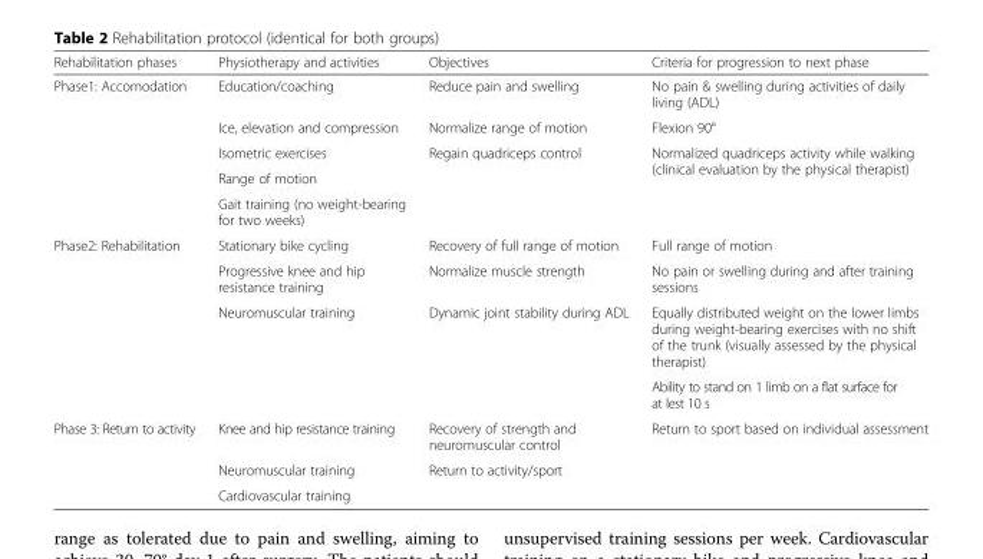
<table><thead><tr><td>Rehabilitation phases</td><td>Physiotherapy and activities</td><td>Objectives</td><td>Criteria for progression to next phase</td></tr></thead><tbody><tr><td rowspan="5">Phase1: Accomodation</td><td>Education/coaching</td><td>Reduce pain and swelling</td><td>No pain &amp; swelling during activities of daily living (ADL)</td></tr><tr><td>Ice, elevation and compression</td><td>Normalize range of motion</td><td>Flexion 90°</td></tr><tr><td>Isometric exercises</td><td rowspan="3">Regain quadriceps control</td><td rowspan="3">Normalized quadriceps activity while walking (clinical evaluation by the physical therapist)</td></tr><tr><td>Range of motion</td></tr><tr><td>Gait training (no weight-bearing for two weeks)</td></tr><tr><td rowspan="4">Phase2: Rehabilitation</td><td>Stationary bike cycling</td><td>Recovery of full range of motion</td><td>Full range of motion</td></tr><tr><td>Progressive knee and hip resistance training</td><td>Normalize muscle strength</td><td>No pain or swelling during and after training sessions</td></tr><tr><td rowspan="2">Neuromuscular training</td><td rowspan="2">Dynamic joint stability during ADL</td><td>Equally distributed weight on the lower limbs during weight-bearing exercises with no shift of the trunk (visually assessed by the physical therapist)</td></tr><tr><td>Ability to stand on 1 limb on a flat surface for at lest 10 s</td></tr><tr><td rowspan="3">Phase 3: Return to activity</td><td>Knee and hip resistance training</td><td>Recovery of strength and neuromuscular control</td><td rowspan="3">Return to sport based on individual assessment</td></tr><tr><td>Neuromuscular training</td><td rowspan="2">Return to activity/sport</td></tr><tr><td>Cardiovascular training</td></tr></tbody></table>